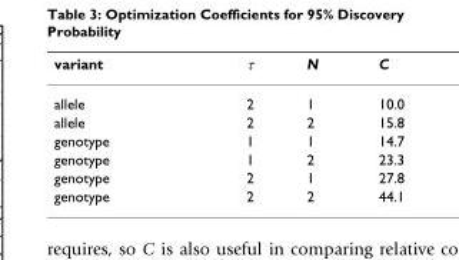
<table><thead><tr><td>variant</td><td>τ</td><td>N</td><td>C</td></tr></thead><tbody><tr><td>allele</td><td>2</td><td>1</td><td>10.0</td></tr><tr><td>allele</td><td>2</td><td>2</td><td>15.8</td></tr><tr><td>genotype</td><td>1</td><td>1</td><td>14.7</td></tr><tr><td>genotype</td><td>1</td><td>2</td><td>23.3</td></tr><tr><td>genotype</td><td>2</td><td>1</td><td>27.8</td></tr><tr><td>genotype</td><td>2</td><td>2</td><td>44.1</td></tr></tbody></table>